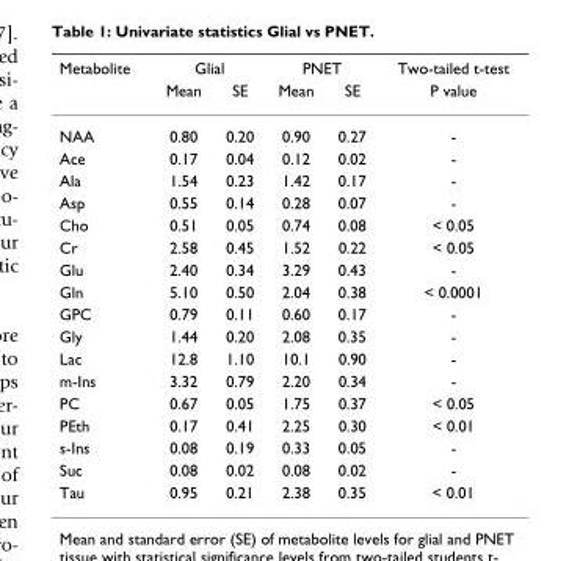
<table><thead><tr><td rowspan="2">Metabolite</td><td colspan="2">Glial</td><td colspan="2">PNET</td><td rowspan="2">Two-tailed t-test P value</td></tr><tr><td>Mean</td><td>SE</td><td>Mean</td><td>SE</td></tr></thead><tbody><tr><td>NAA</td><td>0.80</td><td>0.20</td><td>0.90</td><td>0.27</td><td>-</td></tr><tr><td>Ace</td><td>0.17</td><td>0.04</td><td>0.12</td><td>0.02</td><td>-</td></tr><tr><td>Ala</td><td>1.54</td><td>0.23</td><td>1.42</td><td>0.17</td><td>-</td></tr><tr><td>Asp</td><td>0.55</td><td>0.14</td><td>0.28</td><td>0.07</td><td>-</td></tr><tr><td>Cho</td><td>0.51</td><td>0.05</td><td>0.74</td><td>0.08</td><td>&lt; 0.05</td></tr><tr><td>Cr</td><td>2.58</td><td>0.45</td><td>1.52</td><td>0.22</td><td>&lt; 0.05</td></tr><tr><td>Glu</td><td>2.40</td><td>0.34</td><td>3.29</td><td>0.43</td><td>-</td></tr><tr><td>Gln</td><td>5.10</td><td>0.50</td><td>2.04</td><td>0.38</td><td>&lt; 0.0001</td></tr><tr><td>GPC</td><td>0.79</td><td>0.11</td><td>0.60</td><td>0.17</td><td>-</td></tr><tr><td>Gly</td><td>1.44</td><td>0.20</td><td>2.08</td><td>0.35</td><td>-</td></tr><tr><td>Lac</td><td>12.8</td><td>1.10</td><td>10.1</td><td>0.90</td><td>-</td></tr><tr><td>m-Ins</td><td>3.32</td><td>0.79</td><td>2.20</td><td>0.34</td><td>-</td></tr><tr><td>PC</td><td>0.67</td><td>0.05</td><td>1.75</td><td>0.37</td><td>&lt; 0.05</td></tr><tr><td>PEth</td><td>0.17</td><td>0.41</td><td>2.25</td><td>0.30</td><td>&lt; 0.01</td></tr><tr><td>s-Ins</td><td>0.08</td><td>0.19</td><td>0.33</td><td>0.05</td><td>-</td></tr><tr><td>Suc</td><td>0.08</td><td>0.02</td><td>0.08</td><td>0.02</td><td>-</td></tr><tr><td>Tau</td><td>0.95</td><td>0.21</td><td>2.38</td><td>0.35</td><td>&lt; 0.01</td></tr></tbody></table>